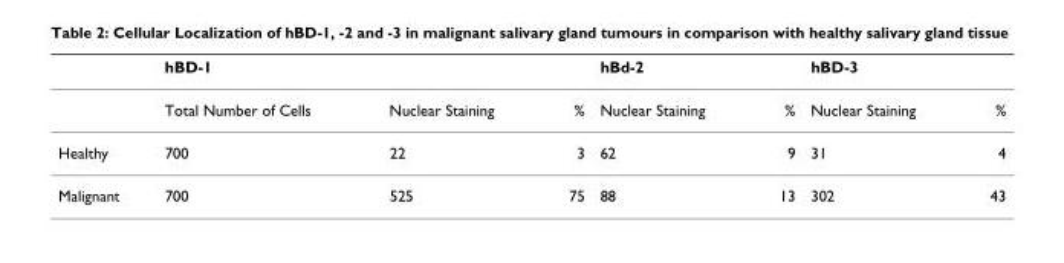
<table><thead><tr><td></td><td>hBD-1</td><td></td><td></td><td>hBd-2</td><td></td><td>hBD-3</td><td></td></tr></thead><tbody><tr><td></td><td>Total Number of Cells</td><td>Nuclear Staining</td><td>%</td><td>Nuclear Staining</td><td>%</td><td>Nuclear Staining</td><td>%</td></tr><tr><td>Healthy</td><td>700</td><td>22</td><td>3</td><td>62</td><td>9</td><td>31</td><td>4</td></tr><tr><td>Malignant</td><td>700</td><td>525</td><td>75</td><td>88</td><td>13</td><td>302</td><td>43</td></tr></tbody></table>